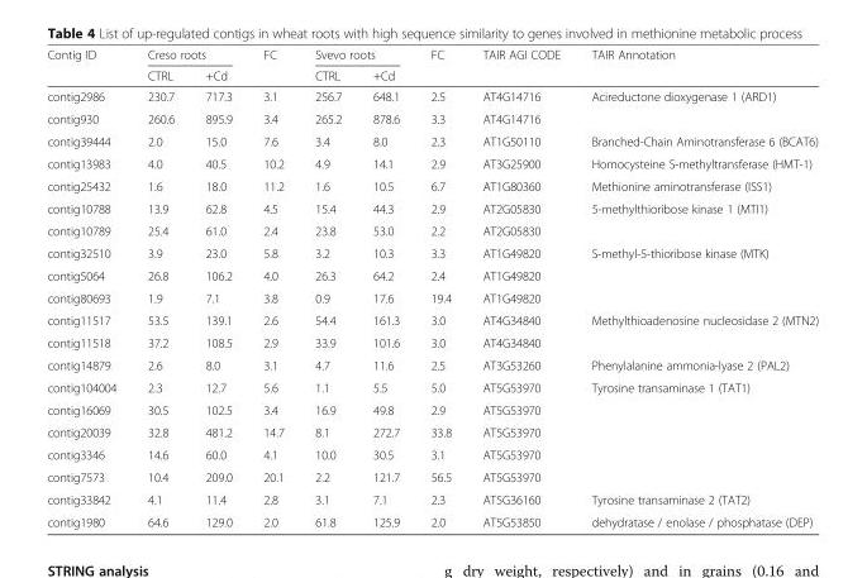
<table><thead><tr><td rowspan="2">Contig ID</td><td colspan="2">Creso roots</td><td rowspan="2">FC</td><td colspan="2">Svevo roots</td><td rowspan="2">FC</td><td rowspan="2">TAIR AGI CODE</td><td rowspan="2">TAIR Annotation</td></tr><tr><td>CTRL</td><td>+Cd</td><td>CTRL</td><td>+Cd</td></tr></thead><tbody><tr><td>contig2986</td><td>230.7</td><td>717.3</td><td>3.1</td><td>256.7</td><td>648.1</td><td>2.5</td><td>AT4G14716</td><td rowspan="2">Acireductone dioxygenase 1 (ARD1)</td></tr><tr><td>contig930</td><td>260.6</td><td>895.9</td><td>3.4</td><td>265.2</td><td>878.6</td><td>3.3</td><td>AT4G14716</td></tr><tr><td>contig39444</td><td>2.0</td><td>15.0</td><td>7.6</td><td>3.4</td><td>8.0</td><td>2.3</td><td>AT1G50110</td><td>Branched-Chain Aminotransferase 6 (BCAT6)</td></tr><tr><td>contig13983</td><td>4.0</td><td>40.5</td><td>10.2</td><td>4.9</td><td>14.1</td><td>2.9</td><td>AT3G25900</td><td>Homocysteine S-methyltransferase (HMT-1)</td></tr><tr><td>contig25432</td><td>1.6</td><td>18.0</td><td>11.2</td><td>1.6</td><td>10.5</td><td>6.7</td><td>AT1G80360</td><td>Methionine aminotransferase (ISS1)</td></tr><tr><td>contig10788</td><td>13.9</td><td>62.8</td><td>4.5</td><td>15.4</td><td>44.3</td><td>2.9</td><td>AT2G05830</td><td rowspan="2">5-methylthioribose kinase 1 (MTI1)</td></tr><tr><td>contig10789</td><td>25.4</td><td>61.0</td><td>2.4</td><td>23.8</td><td>53.0</td><td>2.2</td><td>AT2G05830</td></tr><tr><td>contig32510</td><td>3.9</td><td>23.0</td><td>5.8</td><td>3.2</td><td>10.3</td><td>3.3</td><td>AT1G49820</td><td rowspan="3">S-methyl-5-thioribose kinase (MTK)</td></tr><tr><td>contig5064</td><td>26.8</td><td>106.2</td><td>4.0</td><td>26.3</td><td>64.2</td><td>2.4</td><td>AT1G49820</td></tr><tr><td>contig80693</td><td>1.9</td><td>7.1</td><td>3.8</td><td>0.9</td><td>17.6</td><td>19.4</td><td>AT1G49820</td></tr><tr><td>contig11517</td><td>53.5</td><td>139.1</td><td>2.6</td><td>54.4</td><td>161.3</td><td>3.0</td><td>AT4G34840</td><td rowspan="2">Methylthioadenosine nucleosidase 2 (MTN2)</td></tr><tr><td>contig11518</td><td>37.2</td><td>108.5</td><td>2.9</td><td>33.9</td><td>101.6</td><td>3.0</td><td>AT4G34840</td></tr><tr><td>contig14879</td><td>2.6</td><td>8.0</td><td>3.1</td><td>4.7</td><td>11.6</td><td>2.5</td><td>AT3G53260</td><td>Phenylalanine ammonia-lyase 2 (PAL2)</td></tr><tr><td>contig104004</td><td>2.3</td><td>12.7</td><td>5.6</td><td>1.1</td><td>5.5</td><td>5.0</td><td>AT5G53970</td><td rowspan="5">Tyrosine transaminase 1 (TAT1)</td></tr><tr><td>contig16069</td><td>30.5</td><td>102.5</td><td>3.4</td><td>16.9</td><td>49.8</td><td>2.9</td><td>AT5G53970</td></tr><tr><td>contig20039</td><td>32.8</td><td>481.2</td><td>14.7</td><td>8.1</td><td>272.7</td><td>33.8</td><td>AT5G53970</td></tr><tr><td>contig3346</td><td>14.6</td><td>60.0</td><td>4.1</td><td>10.0</td><td>30.5</td><td>3.1</td><td>AT5G53970</td></tr><tr><td>contig7573</td><td>10.4</td><td>209.0</td><td>20.1</td><td>2.2</td><td>121.7</td><td>56.5</td><td>AT5G53970</td></tr><tr><td>contig33842</td><td>4.1</td><td>11.4</td><td>2.8</td><td>3.1</td><td>7.1</td><td>2.3</td><td>AT5G36160</td><td>Tyrosine transaminase 2 (TAT2)</td></tr><tr><td>contig1980</td><td>64.6</td><td>129.0</td><td>2.0</td><td>61.8</td><td>125.9</td><td>2.0</td><td>AT5G53850</td><td>dehydratase / enolase / phosphatase (DEP)</td></tr></tbody></table>